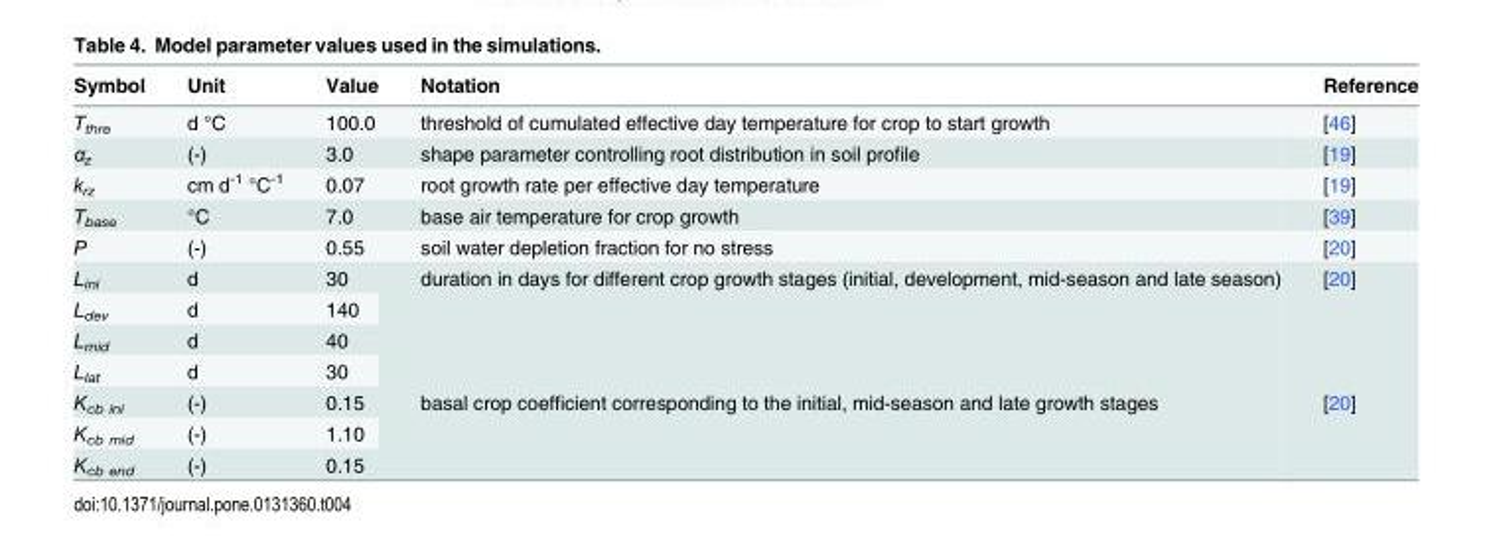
<table><thead><tr><td>Symbol</td><td>Unit</td><td>Value</td><td>Notation</td><td>Reference</td></tr></thead><tbody><tr><td>T<sub>thre</sub></td><td>d °C</td><td>100.0</td><td>threshold of cumulated effective day temperature for crop to start growth</td><td>[46]</td></tr><tr><td>α<sub>z</sub></td><td>(-)</td><td>3.0</td><td>shape parameter controlling root distribution in soil profile</td><td>[19]</td></tr><tr><td>k<sub>rz</sub></td><td>cm d<sup>-1</sup> °C<sup>-1</sup></td><td>0.07</td><td>root growth rate per effective day temperature</td><td>[19]</td></tr><tr><td>T<sub>base</sub></td><td>°C</td><td>7.0</td><td>base air temperature for crop growth</td><td>[39]</td></tr><tr><td>P</td><td>(-)</td><td>0.55</td><td>soil water depletion fraction for no stress</td><td>[20]</td></tr><tr><td>L<sub>ini</sub></td><td>d</td><td>30</td><td rowspan="4">duration in days for different crop growth stages (initial, development, mid-season and late season)</td><td rowspan="4">[20]</td></tr><tr><td>L<sub>dev</sub></td><td>d</td><td>140</td></tr><tr><td>L<sub>mid</sub></td><td>d</td><td>40</td></tr><tr><td>L<sub>lat</sub></td><td>d</td><td>30</td></tr><tr><td>K<sub>cb ini</sub></td><td>(-)</td><td>0.15</td><td rowspan="3">basal crop coefficient corresponding to the initial, mid-season and late growth stages</td><td rowspan="3">[20]</td></tr><tr><td>K<sub>cb mid</sub></td><td>(-)</td><td>1.10</td></tr><tr><td>K<sub>cb end</sub></td><td>(-)</td><td>0.15</td></tr></tbody></table>